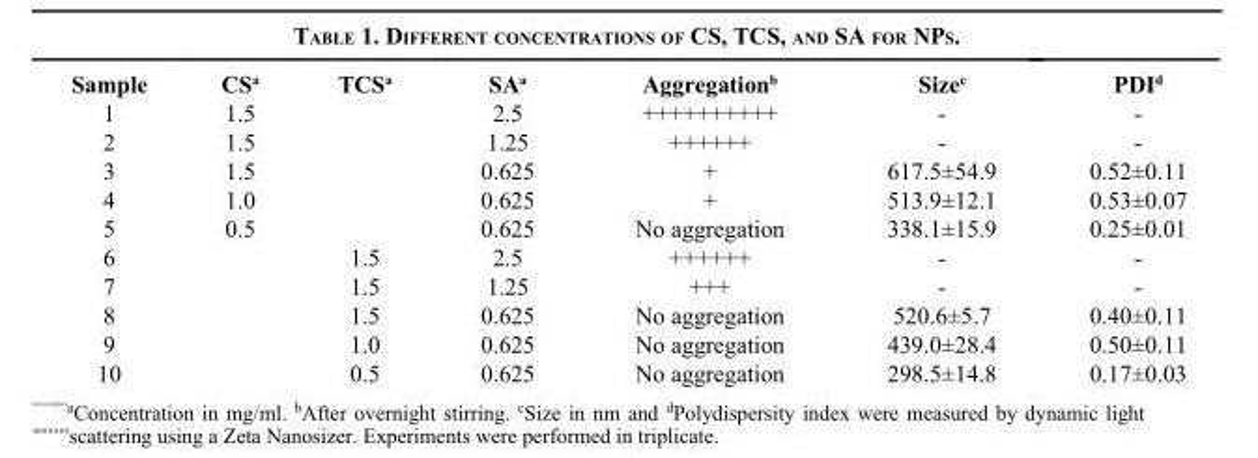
<table><thead><tr><td>Sample</td><td>CS<sup>a</sup></td><td>TCS<sup>a</sup></td><td>SA<sup>a</sup></td><td>Aggregation<sup>b</sup></td><td>Size<sup>c</sup></td><td>PDI<sup>d</sup></td></tr></thead><tbody><tr><td>1</td><td>1.5</td><td></td><td>2.5</td><td>++++++++++</td><td>-</td><td>-</td></tr><tr><td>2</td><td>1.5</td><td></td><td>1.25</td><td>++++++</td><td>-</td><td>-</td></tr><tr><td>3</td><td>1.5</td><td></td><td>0.625</td><td>+</td><td>617.5±54.9</td><td>0.52±0.11</td></tr><tr><td>4</td><td>1.0</td><td></td><td>0.625</td><td>+</td><td>513.9±12.1</td><td>0.53±0.07</td></tr><tr><td>5</td><td>0.5</td><td></td><td>0.625</td><td>No aggregation</td><td>338.1±15.9</td><td>0.25±0.01</td></tr><tr><td>6</td><td></td><td>1.5</td><td>2.5</td><td>++++++</td><td>-</td><td>-</td></tr><tr><td>7</td><td></td><td>1.5</td><td>1.25</td><td>+++</td><td>-</td><td>-</td></tr><tr><td>8</td><td></td><td>1.5</td><td>0.625</td><td>No aggregation</td><td>520.6±5.7</td><td>0.40±0.11</td></tr><tr><td>9</td><td></td><td>1.0</td><td>0.625</td><td>No aggregation</td><td>439.0±28.4</td><td>0.50±0.11</td></tr><tr><td>10</td><td></td><td>0.5</td><td>0.625</td><td>No aggregation</td><td>298.5±14.8</td><td>0.17±0.03</td></tr></tbody></table>